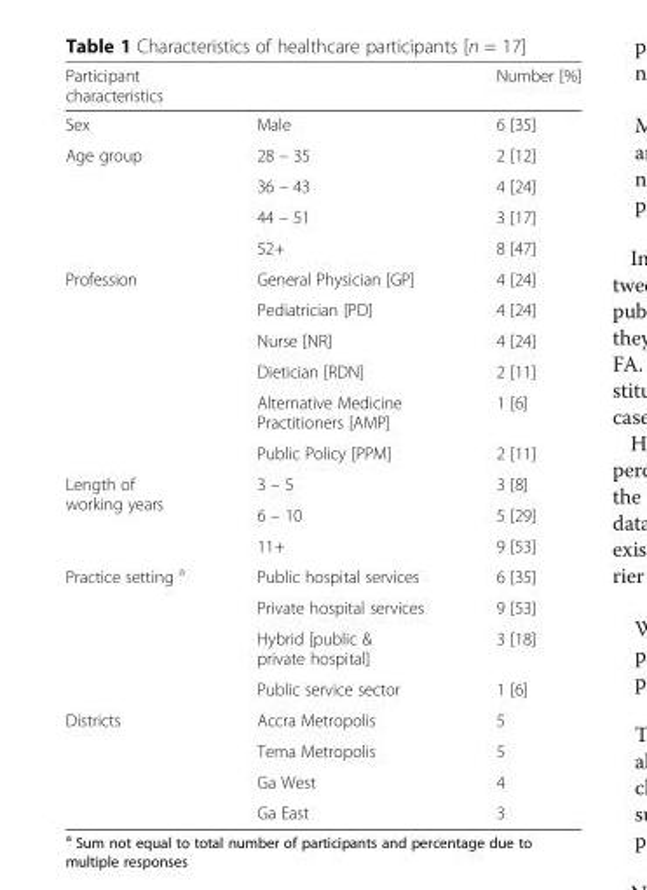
<table><thead><tr><td>Participant characteristics</td><td></td><td>Number [%]</td></tr></thead><tbody><tr><td>Sex</td><td>Male</td><td>6 [35]</td></tr><tr><td rowspan="4">Age group</td><td>28 – 35</td><td>2 [12]</td></tr><tr><td>36 – 43</td><td>4 [24]</td></tr><tr><td>44 – 51</td><td>3 [17]</td></tr><tr><td>52+</td><td>8 [47]</td></tr><tr><td rowspan="6">Profession</td><td>General Physician [GP]</td><td>4 [24]</td></tr><tr><td>Pediatrician [PD]</td><td>4 [24]</td></tr><tr><td>Nurse [NR]</td><td>4 [24]</td></tr><tr><td>Dietician [RDN]</td><td>2 [11]</td></tr><tr><td>Alternative Medicine Practitioners [AMP]</td><td>1 [6]</td></tr><tr><td>Public Policy [PPM]</td><td>2 [11]</td></tr><tr><td rowspan="3">Length of working years</td><td>3 – 5</td><td>3 [8]</td></tr><tr><td>6 – 10</td><td>5 [29]</td></tr><tr><td>11+</td><td>9 [53]</td></tr><tr><td rowspan="4">Practice setting <sup>a</sup></td><td>Public hospital services</td><td>6 [35]</td></tr><tr><td>Private hospital services</td><td>9 [53]</td></tr><tr><td>Hybrid [public &amp; private hospital]</td><td>3 [18]</td></tr><tr><td>Public service sector</td><td>1 [6]</td></tr><tr><td rowspan="4">Districts</td><td>Accra Metropolis</td><td>5</td></tr><tr><td>Tema Metropolis</td><td>5</td></tr><tr><td>Ga West</td><td>4</td></tr><tr><td>Ga East</td><td>3</td></tr></tbody></table>